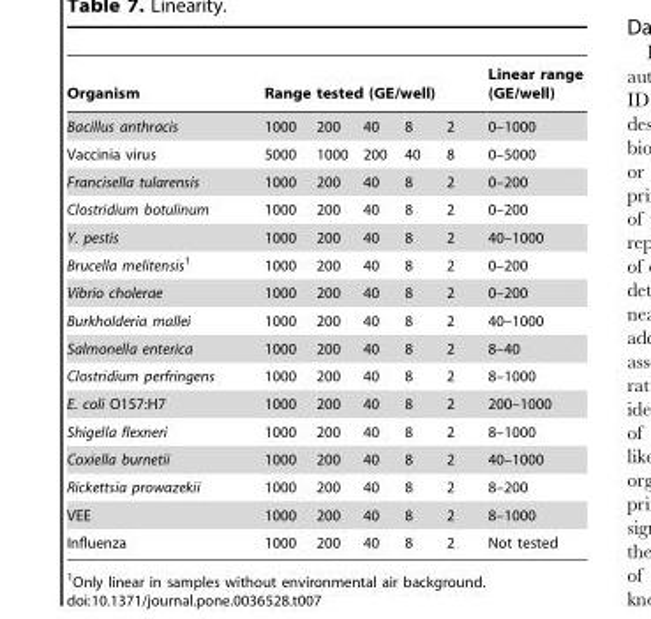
<table><thead><tr><td rowspan="2">Organism Bacillus anthracis</td><td colspan="5">Range tested (GE/well)</td><td rowspan="2">Linear range (GE/well) 0–1000</td></tr><tr><td>1000</td><td>200</td><td>40</td><td>8</td><td>2</td></tr></thead><tbody><tr><td>Vaccinia virus</td><td>5000</td><td>1000</td><td>200</td><td>40</td><td>8</td><td>0–5000</td></tr><tr><td>Francisella tularensis</td><td>1000</td><td>200</td><td>40</td><td>8</td><td>2</td><td>0–200</td></tr><tr><td>Clostridium botulinum</td><td>1000</td><td>200</td><td>40</td><td>8</td><td>2</td><td>0–200</td></tr><tr><td>Y. pestis</td><td>1000</td><td>200</td><td>40</td><td>8</td><td>2</td><td>40–1000</td></tr><tr><td>Brucella melitensis1</td><td>1000</td><td>200</td><td>40</td><td>8</td><td>2</td><td>0–200</td></tr><tr><td>Vibrio cholerae</td><td>1000</td><td>200</td><td>40</td><td>8</td><td>2</td><td>0–200</td></tr><tr><td>Burkholderia mallei</td><td>1000</td><td>200</td><td>40</td><td>8</td><td>2</td><td>40–1000</td></tr><tr><td>Salmonella enterica</td><td>1000</td><td>200</td><td>40</td><td>8</td><td>2</td><td>8–40</td></tr><tr><td>Clostridium perfringens</td><td>1000</td><td>200</td><td>40</td><td>8</td><td>2</td><td>8–1000</td></tr><tr><td>E. coli O157:H7</td><td>1000</td><td>200</td><td>40</td><td>8</td><td>2</td><td>200–1000</td></tr><tr><td>Shigella flexneri</td><td>1000</td><td>200</td><td>40</td><td>8</td><td>2</td><td>8–1000</td></tr><tr><td>Coxiella burnetii</td><td>1000</td><td>200</td><td>40</td><td>8</td><td>2</td><td>40–1000</td></tr><tr><td>Rickettsia prowazekii</td><td>1000</td><td>200</td><td>40</td><td>8</td><td>2</td><td>8–200</td></tr><tr><td>VEE</td><td>1000</td><td>200</td><td>40</td><td>8</td><td>2</td><td>8–1000</td></tr><tr><td>Influenza</td><td>1000</td><td>200</td><td>40</td><td>8</td><td>2</td><td>Not tested</td></tr></tbody></table>